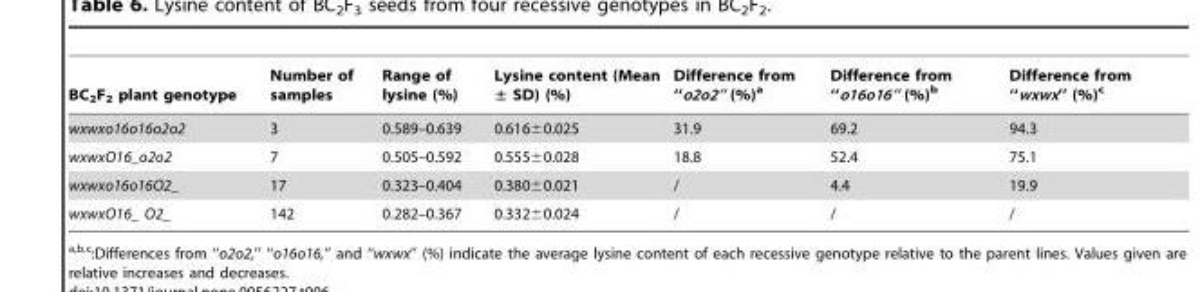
<table><thead><tr><td>BC<sub>2</sub>F<sub>2</sub> plant genotype</td><td>Number of samples</td><td>Range of lysine (%)</td><td>Lysine content (Mean ± SD) (%)</td><td>Difference from ‘‘o2o2’’ (%)a</td><td>Difference from ‘‘o16o16’’ (%)b</td><td>Difference from ‘‘wxwx’’ (%)c</td></tr></thead><tbody><tr><td>wxwxo16o16o2o2</td><td>3</td><td>0.589–0.639</td><td>0.616±0.025</td><td>31.9</td><td>69.2</td><td>94.3</td></tr><tr><td>wxwxO16_o2o2</td><td>7</td><td>0.505–0.592</td><td>0.555±0.028</td><td>18.8</td><td>52.4</td><td>75.1</td></tr><tr><td>wxwxo16o16O2_</td><td>17</td><td>0.323–0.404</td><td>0.380±0.021</td><td>/</td><td>4.4</td><td>19.9</td></tr><tr><td>wxwxO16_ O2_</td><td>142</td><td>0.282–0.367</td><td>0.332±0.024</td><td>/</td><td>/</td><td>/</td></tr></tbody></table>